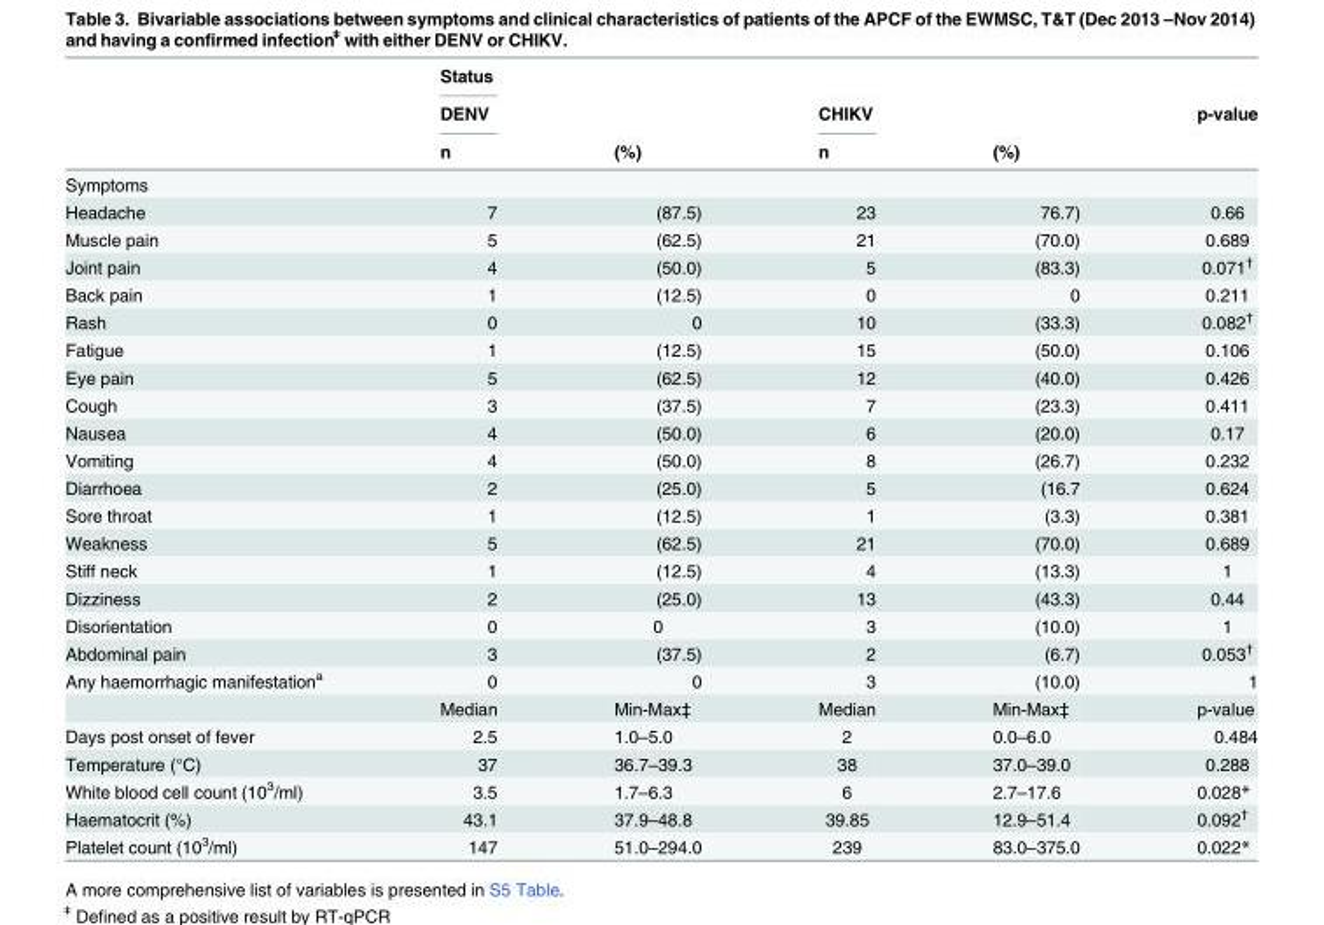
<table><thead><tr><td rowspan="3"></td><td rowspan="3">Status DENV n</td><td rowspan="3">(%)</td><td rowspan="3">CHIKV n</td><td rowspan="3">(%)</td><td rowspan="3">p-value</td></tr><tr></tr><tr></tr></thead><tbody><tr><td colspan="6">Symptoms</td></tr><tr><td>Headache</td><td>7</td><td>(87.5)</td><td>23</td><td>76.7)</td><td>0.66</td></tr><tr><td>Muscle pain</td><td>5</td><td>(62.5)</td><td>21</td><td>(70.0)</td><td>0.689</td></tr><tr><td>Joint pain</td><td>4</td><td>(50.0)</td><td>5</td><td>(83.3)</td><td>0.071<sup>†</sup></td></tr><tr><td>Back pain</td><td>1</td><td>(12.5)</td><td>0</td><td>0</td><td>0.211</td></tr><tr><td>Rash</td><td>0</td><td>0</td><td>10</td><td>(33.3)</td><td>0.082<sup>†</sup></td></tr><tr><td>Fatigue</td><td>1</td><td>(12.5)</td><td>15</td><td>(50.0)</td><td>0.106</td></tr><tr><td>Eye pain</td><td>5</td><td>(62.5)</td><td>12</td><td>(40.0)</td><td>0.426</td></tr><tr><td>Cough</td><td>3</td><td>(37.5)</td><td>7</td><td>(23.3)</td><td>0.411</td></tr><tr><td>Nausea</td><td>4</td><td>(50.0)</td><td>6</td><td>(20.0)</td><td>0.17</td></tr><tr><td>Vomiting</td><td>4</td><td>(50.0)</td><td>8</td><td>(26.7)</td><td>0.232</td></tr><tr><td>Diarrhoea</td><td>2</td><td>(25.0)</td><td>5</td><td>(16.7</td><td>0.624</td></tr><tr><td>Sore throat</td><td>1</td><td>(12.5)</td><td>1</td><td>(3.3)</td><td>0.381</td></tr><tr><td>Weakness</td><td>5</td><td>(62.5)</td><td>21</td><td>(70.0)</td><td>0.689</td></tr><tr><td>Stiff neck</td><td>1</td><td>(12.5)</td><td>4</td><td>(13.3)</td><td>1</td></tr><tr><td>Dizziness</td><td>2</td><td>(25.0)</td><td>13</td><td>(43.3)</td><td>0.44</td></tr><tr><td>Disorientation</td><td>0</td><td>0</td><td>3</td><td>(10.0)</td><td>1</td></tr><tr><td>Abdominal pain</td><td>3</td><td>(37.5)</td><td>2</td><td>(6.7)</td><td>0.053<sup>†</sup></td></tr><tr><td rowspan="2">Any haemorrhagic manifestation<sup>a</sup></td><td>0</td><td>0</td><td>3</td><td>(10.0)</td><td>1</td></tr><tr><td>Median</td><td>Min-Max‡</td><td>Median</td><td>Min-Max‡</td><td>p-value</td></tr><tr><td>Days post onset of fever</td><td>2.5</td><td>1.0–5.0</td><td>2</td><td>0.0–6.0</td><td>0.484</td></tr><tr><td>Temperature (°C)</td><td>37</td><td>36.7–39.3</td><td>38</td><td>37.0–39.0</td><td>0.288</td></tr><tr><td>White blood cell count (10<sup>3</sup>/ml)</td><td>3.5</td><td>1.7–6.3</td><td>6</td><td>2.7–17.6</td><td>0.028*</td></tr><tr><td>Haematocrit (%)</td><td>43.1</td><td>37.9–48.8</td><td>39.85</td><td>12.9–51.4</td><td>0.092<sup>†</sup></td></tr><tr><td>Platelet count (10<sup>3</sup>/ml)</td><td>147</td><td>51.0–294.0</td><td>239</td><td>83.0–375.0</td><td>0.022*</td></tr></tbody></table>